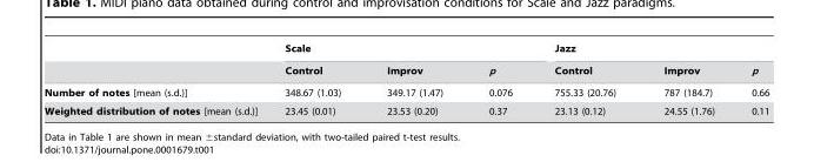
<table><thead><tr><td rowspan="2"></td><td colspan="3">Scale</td><td colspan="3">Jazz</td></tr><tr><td>Control</td><td>Improv</td><td>p</td><td>Control</td><td>Improv</td><td>p</td></tr></thead><tbody><tr><td>Number of notes [mean (s.d.)]</td><td>348.67 (1.03)</td><td>349.17 (1.47)</td><td>0.076</td><td>755.33 (20.76)</td><td>787 (184.7)</td><td>0.66</td></tr><tr><td>Weighted distribution of notes [mean (s.d.)]</td><td>23.45 (0.01)</td><td>23.53 (0.20)</td><td>0.37</td><td>23.13 (0.12)</td><td>24.55 (1.76)</td><td>0.11</td></tr></tbody></table>